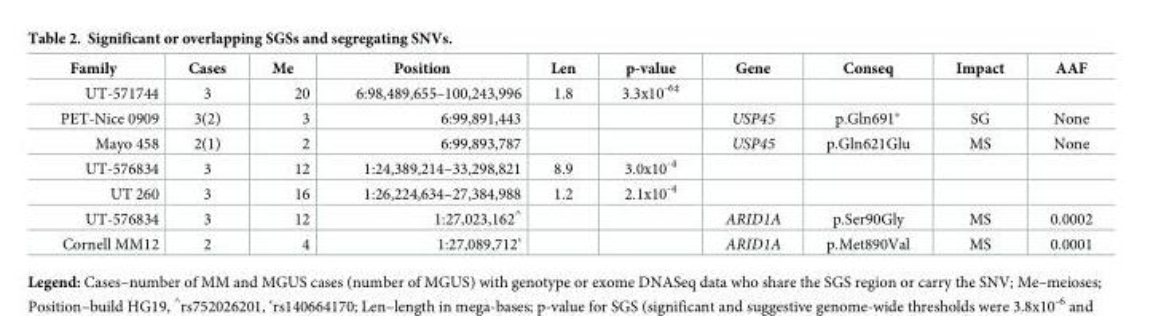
<table><thead><tr><td>Family</td><td>Cases</td><td>Me</td><td>Position</td><td>Len</td><td>p-value</td><td>Gene</td><td>Conseq</td><td>Impact</td><td>AAF</td></tr></thead><tbody><tr><td>UT-571744</td><td>3</td><td>20</td><td>6:98,489,655–100,243,996</td><td>1.8</td><td>3.3x10<sup>-6‡</sup></td><td></td><td></td><td></td><td></td></tr><tr><td>PET-Nice 0909</td><td>3(2)</td><td>3</td><td>6:99,891,443</td><td></td><td></td><td>USP45</td><td>p.Gln691*</td><td>SG</td><td>None</td></tr><tr><td>Mayo 458</td><td>2(1)</td><td>2</td><td>6:99,893,787</td><td></td><td></td><td>USP45</td><td>p.Gln621Glu</td><td>MS</td><td>None</td></tr><tr><td>UT-576834</td><td>3</td><td>12</td><td>1:24,389,214–33,298,821</td><td>8.9</td><td>3.0x10<sup>-4</sup></td><td></td><td></td><td></td><td></td></tr><tr><td>UT 260</td><td>3</td><td>16</td><td>1:26,224,634–27,384,988</td><td>1.2</td><td>2.1x10<sup>-4</sup></td><td></td><td></td><td></td><td></td></tr><tr><td>UT-576834</td><td>3</td><td>12</td><td>1:27,023,162<sup>^</sup></td><td></td><td></td><td>ARID1A</td><td>p.Ser90Gly</td><td>MS</td><td>0.0002</td></tr><tr><td>Cornell MM12</td><td>2</td><td>4</td><td>1:27,089,712‘</td><td></td><td></td><td>ARID1A</td><td>p.Met890Val</td><td>MS</td><td>0.0001</td></tr></tbody></table>